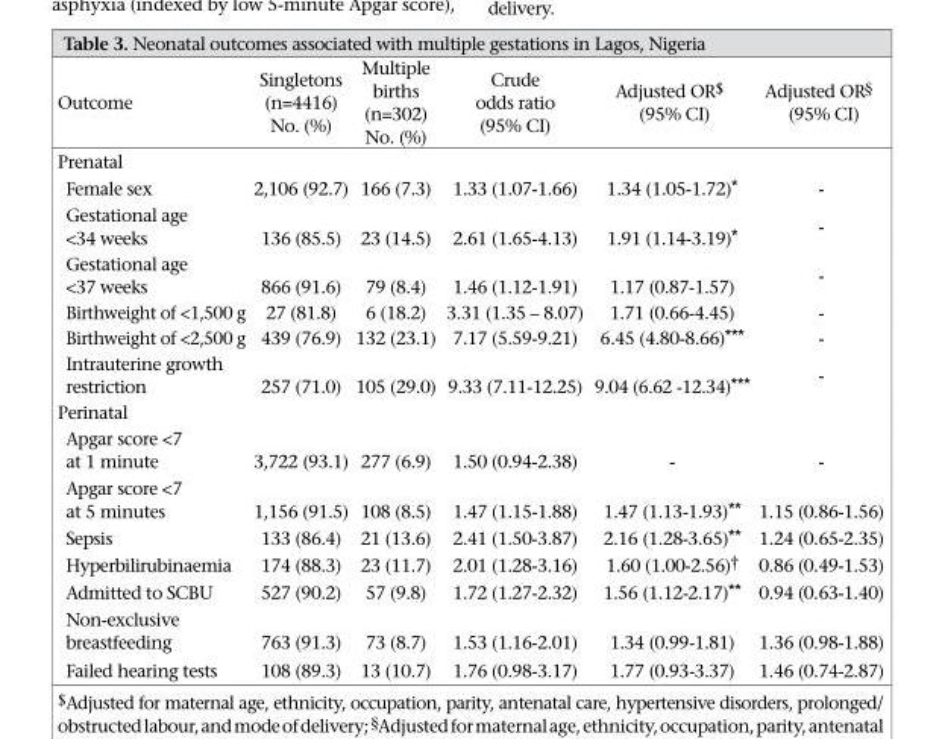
<table><thead><tr><td>Outcome</td><td>Singletons (n=4416) No. (%)</td><td>Multiple births (n=302) No. (%)</td><td>Crude odds ratio (95% CI)</td><td>Adjusted OR$ (95% CI)</td><td>Adjusted OR§ (95% CI)</td></tr></thead><tbody><tr><td colspan="6">Prenatal</td></tr><tr><td>Female sex</td><td>2,106 (92.7)</td><td>166 (7.3)</td><td>1.33 (1.07-1.66)</td><td>1.34 (1.05-1.72)*</td><td>-</td></tr><tr><td>Gestational age &lt;34 weeks</td><td>136 (85.5)</td><td>23 (14.5)</td><td>2.61 (1.65-4.13)</td><td>1.91 (1.14-3.19)*</td><td>-</td></tr><tr><td>Gestational age &lt;37 weeks</td><td>866 (91.6)</td><td>79 (8.4)</td><td>1.46 (1.12-1.91)</td><td>1.17 (0.87-1.57)</td><td>-</td></tr><tr><td>Birthweight of &lt;1,500 g</td><td>27 (81.8)</td><td>6 (18.2)</td><td>3.31 (1.35 – 8.07)</td><td>1.71 (0.66-4.45)</td><td>-</td></tr><tr><td>Birthweight of &lt;2,500 g</td><td>439 (76.9)</td><td>132 (23.1)</td><td>7.17 (5.59-9.21)</td><td>6.45 (4.80-8.66)***</td><td>-</td></tr><tr><td>Intrauterine growth restriction</td><td>257 (71.0)</td><td>105 (29.0)</td><td>9.33 (7.11-12.25)</td><td>9.04 (6.62 -12.34)***</td><td>-</td></tr><tr><td colspan="6">Perinatal</td></tr><tr><td>Apgar score &lt;7 at 1 minute</td><td>3,722 (93.1)</td><td>277 (6.9)</td><td>1.50 (0.94-2.38)</td><td>-</td><td>-</td></tr><tr><td>Apgar score &lt;7 at 5 minutes</td><td>1,156 (91.5)</td><td>108 (8.5)</td><td>1.47 (1.15-1.88)</td><td>1.47 (1.13-1.93)**</td><td>1.15 (0.86-1.56)</td></tr><tr><td>Sepsis</td><td>133 (86.4)</td><td>21 (13.6)</td><td>2.41 (1.50-3.87)</td><td>2.16 (1.28-3.65)**</td><td>1.24 (0.65-2.35)</td></tr><tr><td>Hyperbilirubinaemia</td><td>174 (88.3)</td><td>23 (11.7)</td><td>2.01 (1.28-3.16)</td><td>1.60 (1.00-2.56)†</td><td>0.86 (0.49-1.53)</td></tr><tr><td>Admitted to SCBU</td><td>527 (90.2)</td><td>57 (9.8)</td><td>1.72 (1.27-2.32)</td><td>1.56 (1.12-2.17)**</td><td>0.94 (0.63-1.40)</td></tr><tr><td>Non-exclusive breastfeeding</td><td>763 (91.3)</td><td>73 (8.7)</td><td>1.53 (1.16-2.01)</td><td>1.34 (0.99-1.81)</td><td>1.36 (0.98-1.88)</td></tr><tr><td>Failed hearing tests</td><td>108 (89.3)</td><td>13 (10.7)</td><td>1.76 (0.98-3.17)</td><td>1.77 (0.93-3.37)</td><td>1.46 (0.74-2.87)</td></tr></tbody></table>